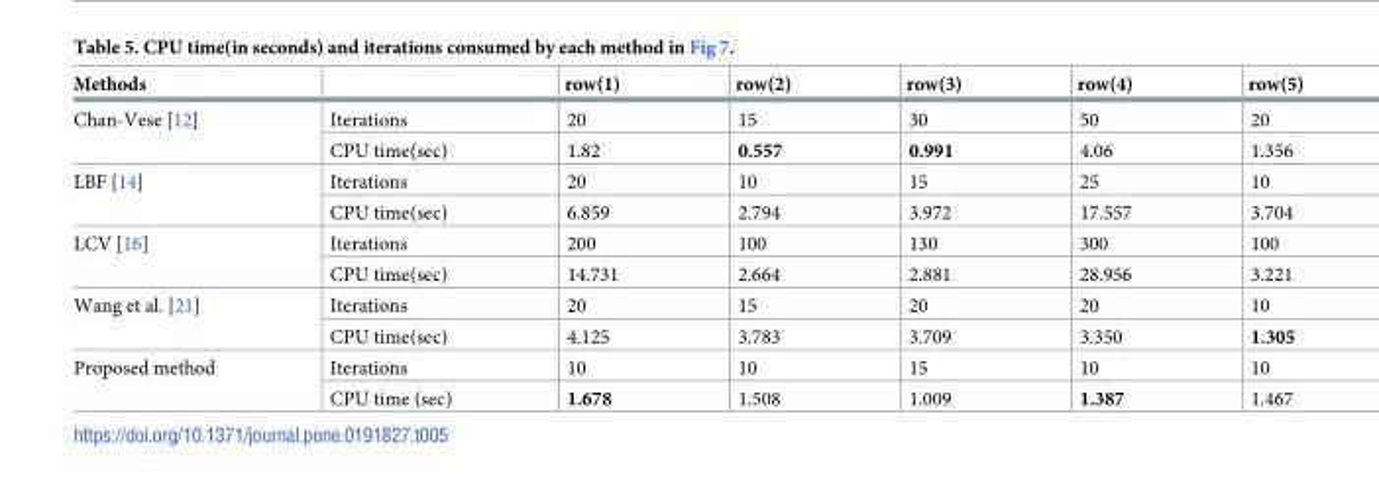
<table><thead><tr><td>Methods</td><td></td><td>row(1)</td><td>row(2)</td><td>row(3)</td><td>row(4)</td><td>row(5)</td></tr></thead><tbody><tr><td rowspan="2">Chan-Vese [12]</td><td>Iterations</td><td>20</td><td>15</td><td>30</td><td>50</td><td>20</td></tr><tr><td>CPU time(sec)</td><td>1.82</td><td>0.557</td><td>0.991</td><td>4.06</td><td>1.356</td></tr><tr><td rowspan="2">LBF [14]</td><td>Iterations</td><td>20</td><td>10</td><td>15</td><td>25</td><td>10</td></tr><tr><td>CPU time(sec)</td><td>6.859</td><td>2.794</td><td>3.972</td><td>17.557</td><td>3.704</td></tr><tr><td rowspan="2">LCV [16]</td><td>Iterations</td><td>200</td><td>100</td><td>130</td><td>300</td><td>100</td></tr><tr><td>CPU time(sec)</td><td>14.731</td><td>2.664</td><td>2.881</td><td>28.956</td><td>3.221</td></tr><tr><td rowspan="2">Wang et al. [21]</td><td>Iterations</td><td>20</td><td>15</td><td>20</td><td>20</td><td>10</td></tr><tr><td>CPU time(sec)</td><td>4.125</td><td>3.783</td><td>3.709</td><td>3.350</td><td>1.305</td></tr><tr><td rowspan="2">Proposed method</td><td>Iterations</td><td>10</td><td>10</td><td>15</td><td>10</td><td>10</td></tr><tr><td>CPU time (sec)</td><td>1.678</td><td>1.508</td><td>1.009</td><td>1.387</td><td>1.467</td></tr></tbody></table>